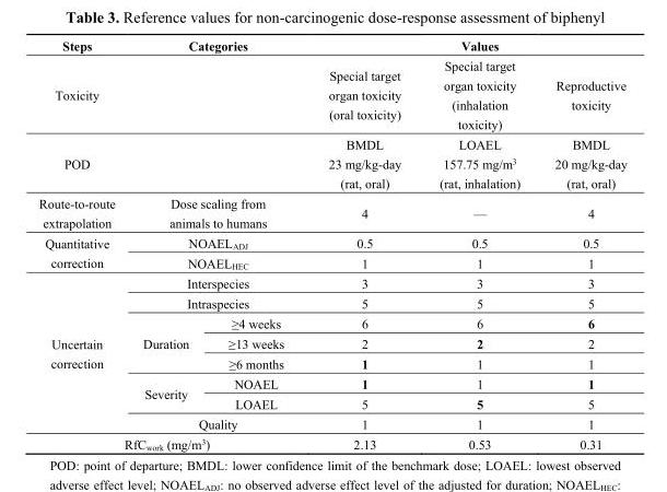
<table><thead><tr><td>Steps</td><td colspan="2">Categories</td><td></td><td>Values</td><td></td></tr></thead><tbody><tr><td>Toxicity</td><td colspan="2"></td><td>Special target organ toxicity (oral toxicity)</td><td>Special target organ toxicity (inhalation toxicity)</td><td>Reproductive toxicity</td></tr><tr><td>POD</td><td colspan="2"></td><td>BMDL 23 mg/kg-day (rat, oral)</td><td>LOAEL 157.75 mg/m<sup>3</sup> (rat, inhalation)</td><td>BMDL 20 mg/kg-day (rat, oral)</td></tr><tr><td>Route-to-route extrapolation</td><td colspan="2">Dose scaling from animals to humans</td><td>4</td><td>—</td><td>4</td></tr><tr><td rowspan="2">Quantitative correction</td><td colspan="2">NOAEL<sub>ADJ</sub></td><td>0.5</td><td>0.5</td><td>0.5</td></tr><tr><td colspan="2">NOAEL<sub>HEC</sub></td><td>1</td><td>1</td><td>1</td></tr><tr><td rowspan="8">Uncertain correction</td><td colspan="2">Interspecies</td><td>3</td><td>3</td><td>3</td></tr><tr><td colspan="2">Intraspecies</td><td>5</td><td>5</td><td>5</td></tr><tr><td rowspan="3">Duration</td><td>≥4 weeks</td><td>6</td><td>6</td><td>6</td></tr><tr><td>≥13 weeks</td><td>2</td><td>2</td><td>2</td></tr><tr><td>≥6 months</td><td>1</td><td>1</td><td>1</td></tr><tr><td rowspan="2">Severity</td><td>NOAEL</td><td>1</td><td>1</td><td>1</td></tr><tr><td>LOAEL</td><td>5</td><td>5</td><td>5</td></tr><tr><td colspan="2">Quality</td><td>1</td><td>1</td><td>1</td></tr><tr><td colspan="3">RfC<sub>work</sub> (mg/m<sup>3</sup>)</td><td>2.13</td><td>0.53</td><td>0.31</td></tr></tbody></table>